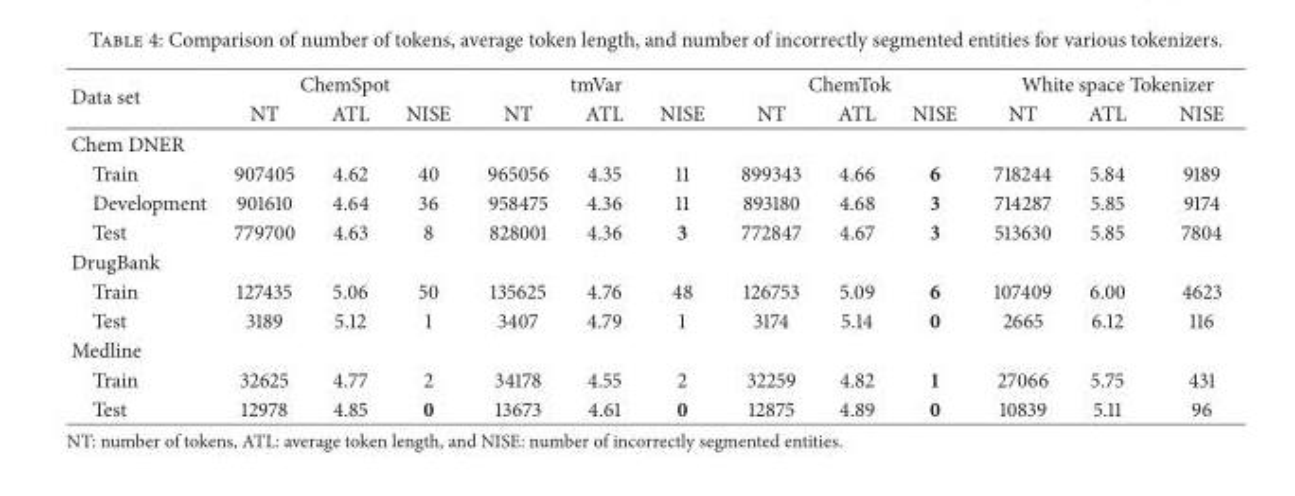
<table><thead><tr><td rowspan="2">Data set</td><td colspan="3">ChemSpot</td><td colspan="3">tmVar</td><td colspan="3">ChemTok</td><td colspan="3">White space Tokenizer</td></tr><tr><td>NT</td><td>ATL</td><td>NISE</td><td>NT</td><td>ATL</td><td>NISE</td><td>NT</td><td>ATL</td><td>NISE</td><td>NT</td><td>ATL</td><td>NISE</td></tr></thead><tbody><tr><td colspan="13">Chem DNER</td></tr><tr><td>Train</td><td>907405</td><td>4.62</td><td>40</td><td>965056</td><td>4.35</td><td>11</td><td>899343</td><td>4.66</td><td>6</td><td>718244</td><td>5.84</td><td>9189</td></tr><tr><td>Development</td><td>901610</td><td>4.64</td><td>36</td><td>958475</td><td>4.36</td><td>11</td><td>893180</td><td>4.68</td><td>3</td><td>714287</td><td>5.85</td><td>9174</td></tr><tr><td>Test</td><td>779700</td><td>4.63</td><td>8</td><td>828001</td><td>4.36</td><td>3</td><td>772847</td><td>4.67</td><td>3</td><td>513630</td><td>5.85</td><td>7804</td></tr><tr><td colspan="13">DrugBank</td></tr><tr><td>Train</td><td>127435</td><td>5.06</td><td>50</td><td>135625</td><td>4.76</td><td>48</td><td>126753</td><td>5.09</td><td>6</td><td>107409</td><td>6.00</td><td>4623</td></tr><tr><td>Test</td><td>3189</td><td>5.12</td><td>1</td><td>3407</td><td>4.79</td><td>1</td><td>3174</td><td>5.14</td><td>0</td><td>2665</td><td>6.12</td><td>116</td></tr><tr><td colspan="13">Medline</td></tr><tr><td>Train</td><td>32625</td><td>4.77</td><td>2</td><td>34178</td><td>4.55</td><td>2</td><td>32259</td><td>4.82</td><td>1</td><td>27066</td><td>5.75</td><td>431</td></tr><tr><td>Test</td><td>12978</td><td>4.85</td><td>0</td><td>13673</td><td>4.61</td><td>0</td><td>12875</td><td>4.89</td><td>0</td><td>10839</td><td>5.11</td><td>96</td></tr></tbody></table>